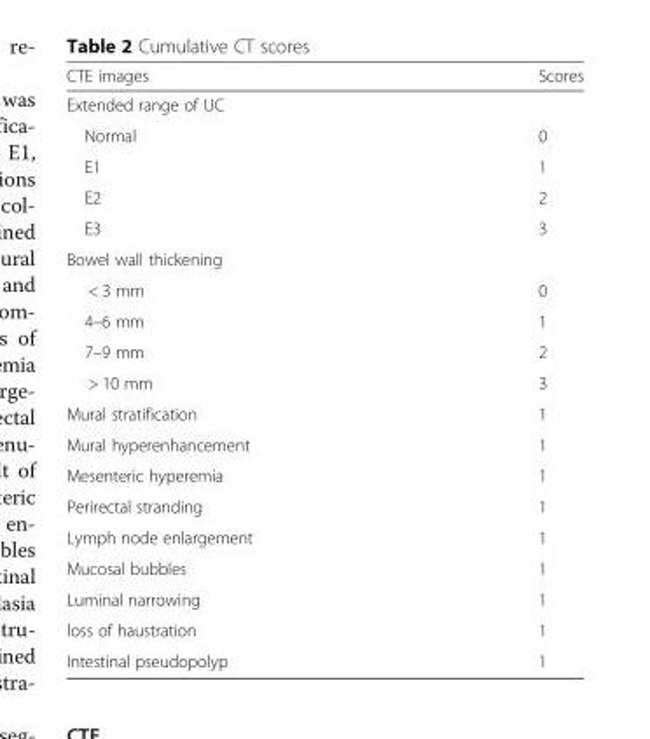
<table><thead><tr><td>CTE images</td><td>Scores</td></tr></thead><tbody><tr><td colspan="2">Extended range of UC</td></tr><tr><td>Normal</td><td>0</td></tr><tr><td>E1</td><td>1</td></tr><tr><td>E2</td><td>2</td></tr><tr><td>E3</td><td>3</td></tr><tr><td colspan="2">Bowel wall thickening</td></tr><tr><td>&lt; 3 mm</td><td>0</td></tr><tr><td>4–6 mm</td><td>1</td></tr><tr><td>7–9 mm</td><td>2</td></tr><tr><td>&gt; 10 mm</td><td>3</td></tr><tr><td>Mural stratification</td><td>1</td></tr><tr><td>Mural hyperenhancement</td><td>1</td></tr><tr><td>Mesenteric hyperemia</td><td>1</td></tr><tr><td>Perirectal stranding</td><td>1</td></tr><tr><td>Lymph node enlargement</td><td>1</td></tr><tr><td>Mucosal bubbles</td><td>1</td></tr><tr><td>Luminal narrowing</td><td>1</td></tr><tr><td>loss of haustration</td><td>1</td></tr><tr><td>Intestinal pseudopolyp</td><td>1</td></tr></tbody></table>